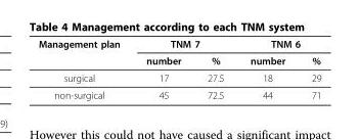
<table><thead><tr><td rowspan="2">Management plan</td><td colspan="2">TNM 7</td><td colspan="2">TNM 6</td></tr><tr><td>number</td><td>%</td><td>number</td><td>%</td></tr></thead><tbody><tr><td>surgical</td><td>17</td><td>27.5</td><td>18</td><td>29</td></tr><tr><td>non-surgical</td><td>45</td><td>72.5</td><td>44</td><td>71</td></tr></tbody></table>